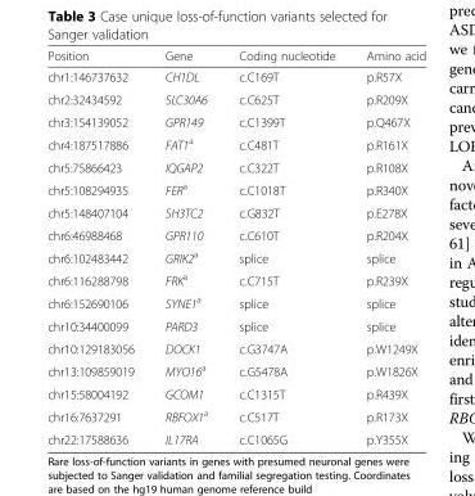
<table><thead><tr><td>Position</td><td>Gene</td><td>Coding nucleotide</td><td>Amino acid</td></tr></thead><tbody><tr><td>chr1:146737632</td><td>CH1DL</td><td>c.C169T</td><td>p.R57X</td></tr><tr><td>chr2:32434592</td><td>SLC30A6</td><td>c.C625T</td><td>p.R209X</td></tr><tr><td>chr3:154139052</td><td>GPR149</td><td>c.C1399T</td><td>p.Q467X</td></tr><tr><td>chr4:187517886</td><td>FAT1<sup>a</sup></td><td>c.C481T</td><td>p.R161X</td></tr><tr><td>chr5:75866423</td><td>IQGAP2</td><td>c.C322T</td><td>p.R108X</td></tr><tr><td>chr5:108294935</td><td>FER<sup>a</sup></td><td>c.C1018T</td><td>p.R340X</td></tr><tr><td>chr5:148407104</td><td>SH3TC2</td><td>c.G832T</td><td>p.E278X</td></tr><tr><td>chr6:46988468</td><td>GPR110</td><td>c.C610T</td><td>p.R204X</td></tr><tr><td>chr6:102483442</td><td>GRIK2<sup>a</sup></td><td>splice</td><td>splice</td></tr><tr><td>chr6:116288798</td><td>FRK<sup>a</sup></td><td>c.C715T</td><td>p.R239X</td></tr><tr><td>chr6:152690106</td><td>SYNE1<sup>a</sup></td><td>splice</td><td>splice</td></tr><tr><td>chr10:34400099</td><td>PARD3</td><td>splice</td><td>splice</td></tr><tr><td>chr10:129183056</td><td>DOCK1</td><td>c.G3747A</td><td>p.W1249X</td></tr><tr><td>chr13:109859019</td><td>MYO16<sup>a</sup></td><td>c.G5478A</td><td>p.W1826X</td></tr><tr><td>chr15:58004192</td><td>GCOM1</td><td>c.C1315T</td><td>p.R439X</td></tr><tr><td>chr16:7637291</td><td>RBFOX1<sup>a</sup></td><td>c.C517T</td><td>p.R173X</td></tr><tr><td>chr22:17588636</td><td>IL17RA</td><td>c.C1065G</td><td>p.Y355X</td></tr></tbody></table>